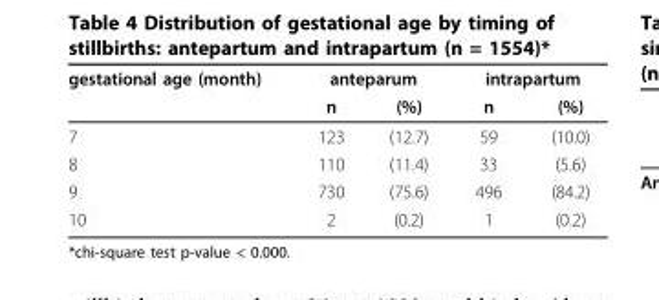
<table><thead><tr><td rowspan="2">gestational age (month)</td><td colspan="2">anteparum</td><td colspan="2">intrapartum</td></tr><tr><td>n</td><td>(%)</td><td>n</td><td>(%)</td></tr></thead><tbody><tr><td>7</td><td>123</td><td>(12.7)</td><td>59</td><td>(10.0)</td></tr><tr><td>8</td><td>110</td><td>(11.4)</td><td>33</td><td>(5.6)</td></tr><tr><td>9</td><td>730</td><td>(75.6)</td><td>496</td><td>(84.2)</td></tr><tr><td>10</td><td>2</td><td>(0.2)</td><td>1</td><td>(0.2)</td></tr></tbody></table>